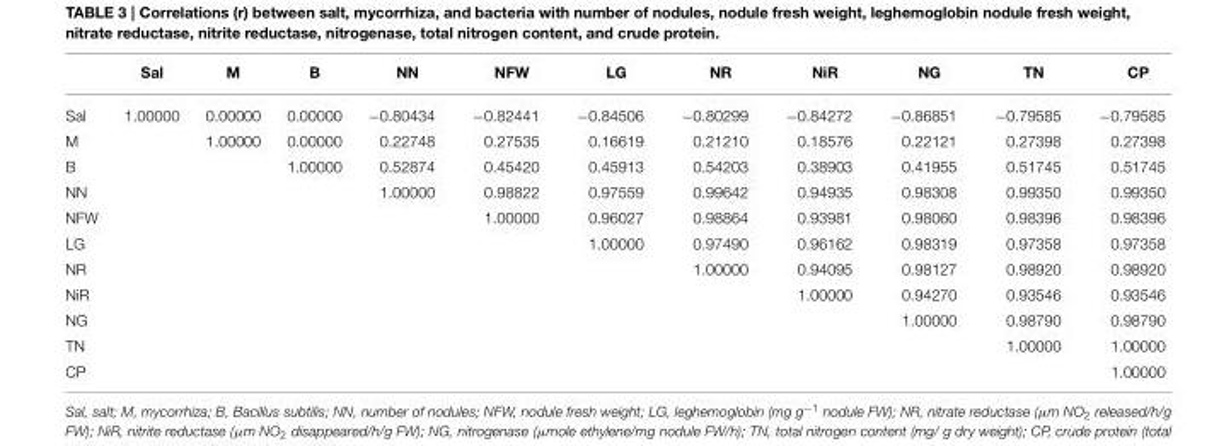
<table><thead><tr><td></td><td>Sal</td><td>M</td><td>B</td><td>NN</td><td>NFW</td><td>LG</td><td>NR</td><td>NiR</td><td>NG</td><td>TN</td><td>CP</td></tr></thead><tbody><tr><td>Sal</td><td>1.00000</td><td>0.00000</td><td>0.00000</td><td>−0.80434</td><td>−0.82441</td><td>−0.84506</td><td>−0.80299</td><td>−0.84272</td><td>−0.86851</td><td>−0.79585</td><td>−0.79585</td></tr><tr><td>M</td><td></td><td>1.00000</td><td>0.00000</td><td>0.22748</td><td>0.27535</td><td>0.16619</td><td>0.21210</td><td>0.18576</td><td>0.22121</td><td>0.27398</td><td>0.27398</td></tr><tr><td>B</td><td></td><td></td><td>1.00000</td><td>0.52874</td><td>0.45420</td><td>0.45913</td><td>0.54203</td><td>0.38903</td><td>0.41955</td><td>0.51745</td><td>0.51745</td></tr><tr><td>NN</td><td></td><td></td><td></td><td>1.00000</td><td>0.98822</td><td>0.97559</td><td>0.99642</td><td>0.94935</td><td>0.98308</td><td>0.99350</td><td>0.99350</td></tr><tr><td>NFW</td><td></td><td></td><td></td><td></td><td>1.00000</td><td>0.96027</td><td>0.98864</td><td>0.93981</td><td>0.98060</td><td>0.98396</td><td>0.98396</td></tr><tr><td>LG</td><td></td><td></td><td></td><td></td><td></td><td>1.00000</td><td>0.97490</td><td>0.96162</td><td>0.98319</td><td>0.97358</td><td>0.97358</td></tr><tr><td>NR</td><td></td><td></td><td></td><td></td><td></td><td></td><td>1.00000</td><td>0.94095</td><td>0.98127</td><td>0.98920</td><td>0.98920</td></tr><tr><td>NiR</td><td></td><td></td><td></td><td></td><td></td><td></td><td></td><td>1.00000</td><td>0.94270</td><td>0.93546</td><td>0.93546</td></tr><tr><td>NG</td><td></td><td></td><td></td><td></td><td></td><td></td><td></td><td></td><td>1.00000</td><td>0.98790</td><td>0.98790</td></tr><tr><td>TN</td><td></td><td></td><td></td><td></td><td></td><td></td><td></td><td></td><td></td><td>1.00000</td><td>1.00000</td></tr><tr><td>CP</td><td></td><td></td><td></td><td></td><td></td><td></td><td></td><td></td><td></td><td></td><td>1.00000</td></tr></tbody></table>